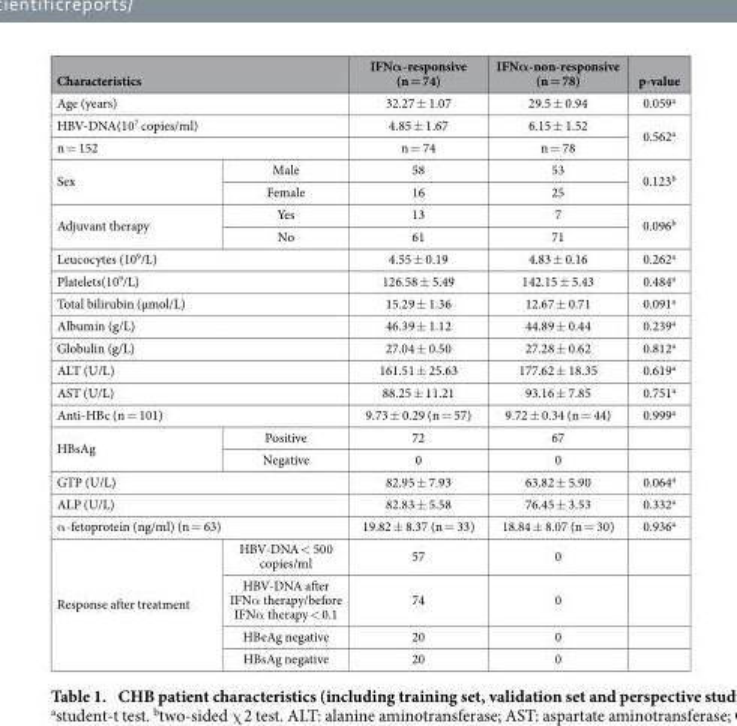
<table><thead><tr><td colspan="2">Characteristics</td><td>IFNα-responsive (n = 74)</td><td>IFNα-non-responsive (n = 78)</td><td>p-value</td></tr></thead><tbody><tr><td colspan="2">Age (years)</td><td>32.27 ± 1.07</td><td>29.5 ± 0.94</td><td>0.059<sup>a</sup></td></tr><tr><td colspan="2">HBV-DNA(10<sup>7</sup> copies/ml)</td><td>4.85 ± 1.67</td><td>6.15 ± 1.52</td><td rowspan="2">0.562<sup>a</sup></td></tr><tr><td colspan="2">n = 152</td><td>n = 74</td><td>n = 78</td></tr><tr><td rowspan="2">Sex</td><td>Male</td><td>58</td><td>53</td><td rowspan="2">0.123<sup>b</sup></td></tr><tr><td>Female</td><td>16</td><td>25</td></tr><tr><td rowspan="2">Adjuvant therapy</td><td>Yes</td><td>13</td><td>7</td><td rowspan="2">0.096<sup>b</sup></td></tr><tr><td>No</td><td>61</td><td>71</td></tr><tr><td colspan="2">Leucocytes (10<sup>9</sup>/L)</td><td>4.55 ± 0.19</td><td>4.83 ± 0.16</td><td>0.262<sup>a</sup></td></tr><tr><td colspan="2">Platelets(10<sup>9</sup>/L)</td><td>126.58 ± 5.49</td><td>142.15 ± 5.43</td><td>0.484<sup>a</sup></td></tr><tr><td colspan="2">Total bilirubin (μmol/L)</td><td>15.29 ± 1.36</td><td>12.67 ± 0.71</td><td>0.091<sup>a</sup></td></tr><tr><td colspan="2">Albumin (g/L)</td><td>46.39 ± 1.12</td><td>44.89 ± 0.44</td><td>0.239<sup>a</sup></td></tr><tr><td colspan="2">Globulin (g/L)</td><td>27.04 ± 0.50</td><td>27.28 ± 0.62</td><td>0.812<sup>a</sup></td></tr><tr><td colspan="2">ALT (U/L)</td><td>161.51 ± 25.63</td><td>177.62 ± 18.35</td><td>0.619<sup>a</sup></td></tr><tr><td colspan="2">AST (U/L)</td><td>88.25 ± 11.21</td><td>93.16 ± 7.85</td><td>0.751<sup>a</sup></td></tr><tr><td colspan="2">Anti-HBc (n = 101)</td><td>9.73 ± 0.29 (n = 57)</td><td>9.72 ± 0.34 (n = 44)</td><td>0.999<sup>a</sup></td></tr><tr><td rowspan="2">HBsAg</td><td>Positive</td><td>72</td><td>67</td><td></td></tr><tr><td>Negative</td><td>0</td><td>0</td><td></td></tr><tr><td colspan="2">GTP (U/L)</td><td>82.95 ± 7.93</td><td>63.82 ± 5.90</td><td>0.064<sup>a</sup></td></tr><tr><td colspan="2">ALP (U/L)</td><td>82.83 ± 5.58</td><td>76.45 ± 3.53</td><td>0.332<sup>a</sup></td></tr><tr><td colspan="2">α -fetoprotein (ng/ml) (n = 63)</td><td>19.82 ± 8.37 (n = 33)</td><td>18.84 ± 8.07 (n = 30)</td><td>0.936<sup>a</sup></td></tr><tr><td rowspan="4">Response after treatment</td><td>HBV-DNA &lt; 500 copies/ml</td><td>57</td><td>0</td><td></td></tr><tr><td>HBV-DNA after IFNα therapy/before IFNα therapy &lt; 0.1</td><td>74</td><td>0</td><td></td></tr><tr><td>HBeAg negative</td><td>20</td><td>0</td><td></td></tr><tr><td>HBsAg negative</td><td>20</td><td>0</td><td></td></tr></tbody></table>